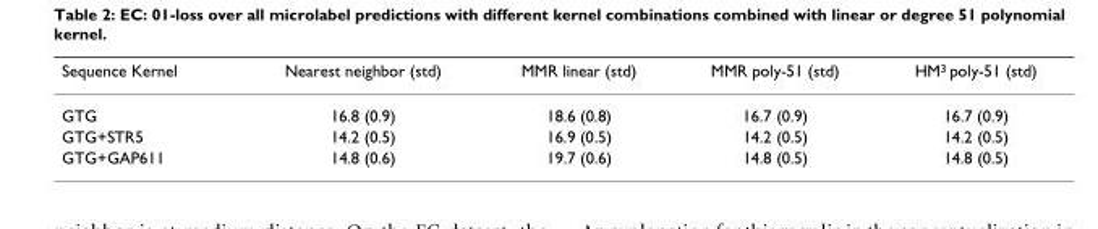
<table><thead><tr><td>Sequence Kernel</td><td>Nearest neighbor (std)</td><td>MMR linear (std)</td><td>MMR poly-51 (std)</td><td>HM<sup>3</sup> poly-51 (std)</td></tr></thead><tbody><tr><td>GTG</td><td>16.8 (0.9)</td><td>18.6 (0.8)</td><td>16.7 (0.9)</td><td>16.7 (0.9)</td></tr><tr><td>GTG+STR5</td><td>14.2 (0.5)</td><td>16.9 (0.5)</td><td>14.2 (0.5)</td><td>14.2 (0.5)</td></tr><tr><td>GTG+GAP611</td><td>14.8 (0.6)</td><td>19.7 (0.6)</td><td>14.8 (0.5)</td><td>14.8 (0.5)</td></tr></tbody></table>